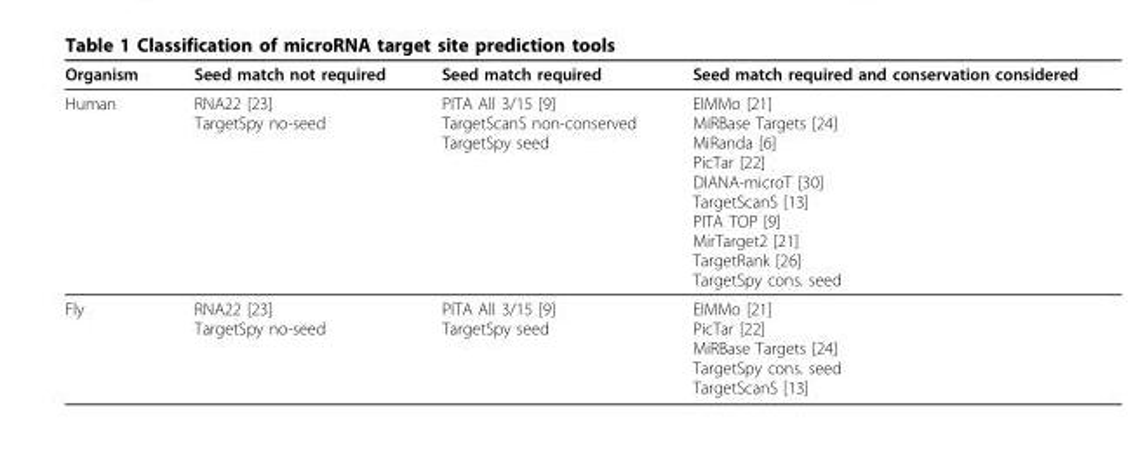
<table><thead><tr><td>Organism</td><td>Seed match not required</td><td>Seed match required</td><td>Seed match required and conservation considered</td></tr></thead><tbody><tr><td>Human</td><td>RNA22 [23] TargetSpy no-seed</td><td>PITA All 3/15 [9] TargetScanS non-conserved TargetSpy seed</td><td>EIMMo [21] MiRBase Targets [24] MiRanda [6] PicTar [22] DIANA-microT [30] TargetScanS [13] PITA TOP [9] MirTarget2 [21] TargetRank [26] TargetSpy cons. seed</td></tr><tr><td>Fly</td><td>RNA22 [23] TargetSpy no-seed</td><td>PITA All 3/15 [9] TargetSpy seed</td><td>EIMMo [21] PicTar [22] MiRBase Targets [24] TargetSpy cons. seed TargetScanS [13]</td></tr></tbody></table>